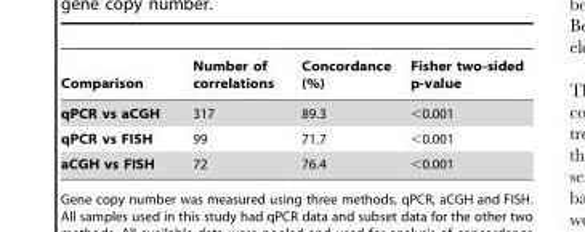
<table><thead><tr><td>Comparison</td><td>Number of correlations</td><td>Concordance (%)</td><td>Fisher two-sided p-value</td></tr></thead><tbody><tr><td>qPCR vs aCGH</td><td>317</td><td>89.3</td><td>&lt;0.001</td></tr><tr><td>qPCR vs FISH</td><td>99</td><td>71.7</td><td>&lt;0.001</td></tr><tr><td>aCGH vs FISH</td><td>72</td><td>76.4</td><td>&lt;0.001</td></tr></tbody></table>